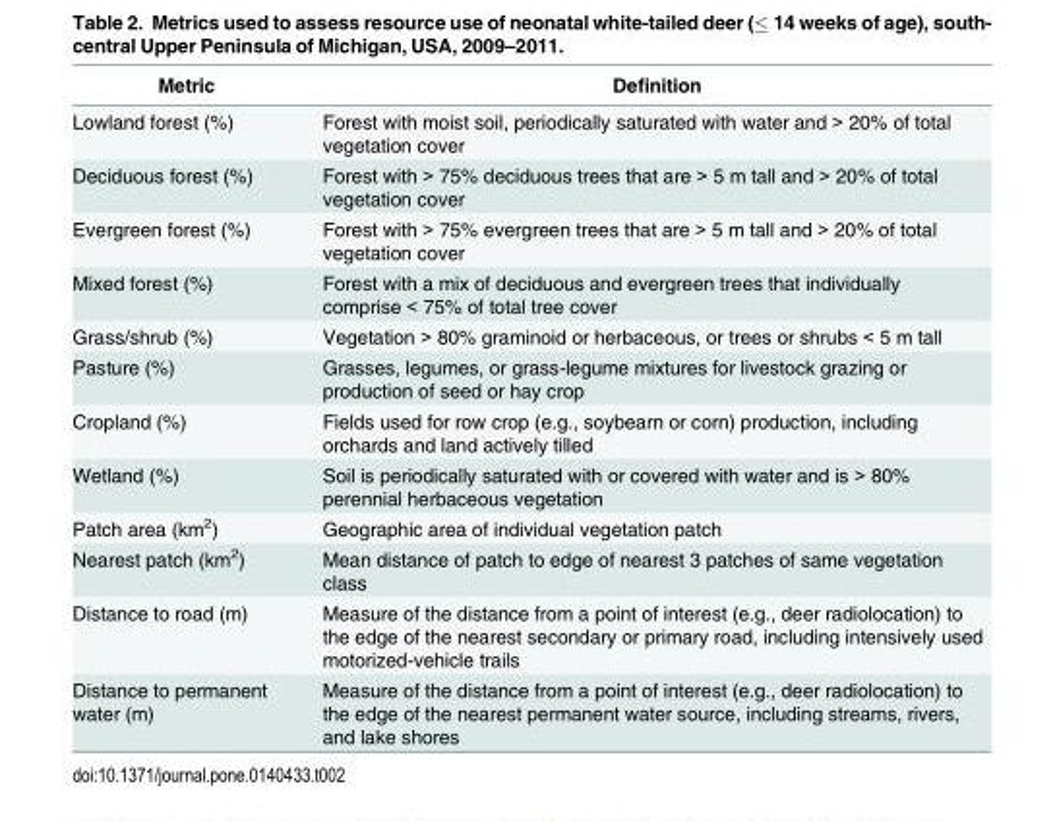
<table><thead><tr><td>Metric</td><td>Definition</td></tr></thead><tbody><tr><td>Lowland forest (%)</td><td>Forest with moist soil, periodically saturated with water and &gt; 20% of total vegetation cover</td></tr><tr><td>Deciduous forest (%)</td><td>Forest with &gt; 75% deciduous trees that are &gt; 5 m tall and &gt; 20% of total vegetation cover</td></tr><tr><td>Evergreen forest (%)</td><td>Forest with &gt; 75% evergreen trees that are &gt; 5 m tall and &gt; 20% of total vegetation cover</td></tr><tr><td>Mixed forest (%)</td><td>Forest with a mix of deciduous and evergreen trees that individually comprise &lt; 75% of total tree cover</td></tr><tr><td>Grass/shrub (%)</td><td>Vegetation &gt; 80% graminoid or herbaceous, or trees or shrubs &lt; 5 m tall</td></tr><tr><td>Pasture (%)</td><td>Grasses, legumes, or grass-legume mixtures for livestock grazing or production of seed or hay crop</td></tr><tr><td>Cropland (%)</td><td>Fields used for row crop (e.g., soybearn or corn) production, including orchards and land actively tilled</td></tr><tr><td>Wetland (%)</td><td>Soil is periodically saturated with or covered with water and is &gt; 80% perennial herbaceous vegetation</td></tr><tr><td>Patch area (km<sup>2</sup>)</td><td>Geographic area of individual vegetation patch</td></tr><tr><td>Nearest patch (km<sup>2</sup>)</td><td>Mean distance of patch to edge of nearest 3 patches of same vegetation class</td></tr><tr><td>Distance to road (m)</td><td>Measure of the distance from a point of interest (e.g., deer radiolocation) to the edge of the nearest secondary or primary road, including intensively used motorized-vehicle trails</td></tr><tr><td>Distance to permanent water (m)</td><td>Measure of the distance from a point of interest (e.g., deer radiolocation) to the edge of the nearest permanent water source, including streams, rivers, and lake shores</td></tr></tbody></table>